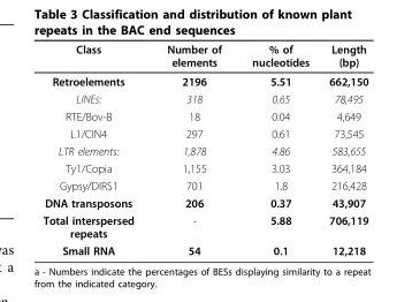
<table><thead><tr><td>Class</td><td>Number of elements</td><td>% of nucleotides</td><td>Length (bp)</td></tr></thead><tbody><tr><td>Retroelements</td><td>2196</td><td>5.51</td><td>662,150</td></tr><tr><td>LINEs:</td><td>318</td><td>0.65</td><td>78,495</td></tr><tr><td>RTE/Bov-B</td><td>18</td><td>0.04</td><td>4,649</td></tr><tr><td>L1/CIN4</td><td>297</td><td>0.61</td><td>73,545</td></tr><tr><td>LTR elements:</td><td>1,878</td><td>4.86</td><td>583,655</td></tr><tr><td>Ty1/Copia</td><td>1,155</td><td>3.03</td><td>364,184</td></tr><tr><td>Gypsy/DIRS1</td><td>701</td><td>1.8</td><td>216,428</td></tr><tr><td>DNA transposons</td><td>206</td><td>0.37</td><td>43,907</td></tr><tr><td>Total interspersed repeats</td><td>-</td><td>5.88</td><td>706,119</td></tr><tr><td>Small RNA</td><td>54</td><td>0.1</td><td>12,218</td></tr></tbody></table>